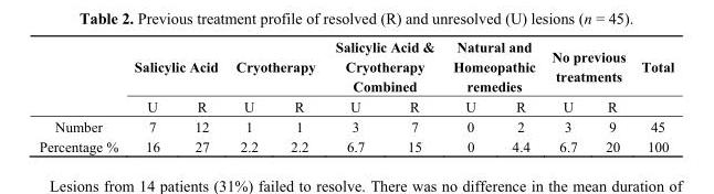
<table><thead><tr><td rowspan="2"></td><td colspan="2">Salicylic Acid</td><td colspan="2">Cryotherapy</td><td colspan="2">Salicylic Acid &amp; Cryotherapy Combined</td><td colspan="2">Natural and Homeopathic remedies</td><td colspan="2">No previous treatments</td><td rowspan="2">Total</td></tr><tr><td>U</td><td>R</td><td>U</td><td>R</td><td>U</td><td>R</td><td>U</td><td>R</td><td>U</td><td>R</td></tr></thead><tbody><tr><td>Number</td><td>7</td><td>12</td><td>1</td><td>1</td><td>3</td><td>7</td><td>0</td><td>2</td><td>3</td><td>9</td><td>45</td></tr><tr><td>Percentage %</td><td>16</td><td>27</td><td>2.2</td><td>2.2</td><td>6.7</td><td>15</td><td>0</td><td>4.4</td><td>6.7</td><td>20</td><td>100</td></tr></tbody></table>